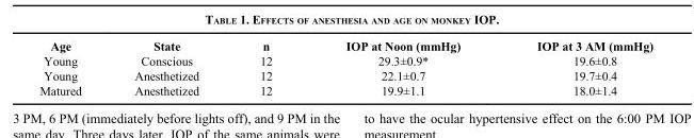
<table><thead><tr><td>Age</td><td>State</td><td>n</td><td>IOP at Noon (mmHg)</td><td>IOP at 3 AM (mmHg)</td></tr></thead><tbody><tr><td>Young</td><td>Conscious</td><td>12</td><td>29.3±0.9*</td><td>19.6±0.8</td></tr><tr><td>Young</td><td>Anesthetized</td><td>12</td><td>22.1±0.7</td><td>19.7±0.4</td></tr><tr><td>Matured</td><td>Anesthetized</td><td>12</td><td>19.9±1.1</td><td>18.0±1.4</td></tr></tbody></table>